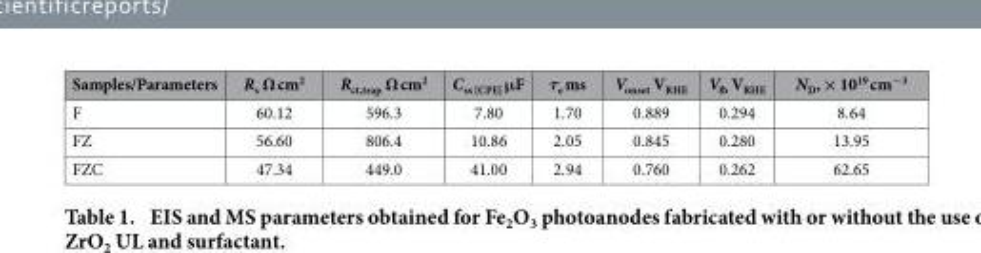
<table><thead><tr><td>Samples/Parameters</td><td>R<sub>s</sub> Ω cm<sup>2</sup></td><td>R<sub>ct,trap</sub> Ω cm<sup>2</sup></td><td>C<sub>ss [CPE]</sub> μF</td><td>τ<sub>e</sub> ms</td><td>V<sub>onset</sub> V<sub>RHE</sub></td><td>V<sub>fb</sub> V<sub>RHE</sub></td><td>N<sub>D</sub>, × 10<sup>19</sup> cm<sup>−3</sup></td></tr></thead><tbody><tr><td>F</td><td>60.12</td><td>596.3</td><td>7.80</td><td>1.70</td><td>0.889</td><td>0.294</td><td>8.64</td></tr><tr><td>FZ</td><td>56.60</td><td>806.4</td><td>10.86</td><td>2.05</td><td>0.845</td><td>0.280</td><td>13.95</td></tr><tr><td>FZC</td><td>47.34</td><td>449.0</td><td>41.00</td><td>2.94</td><td>0.760</td><td>0.262</td><td>62.65</td></tr></tbody></table>